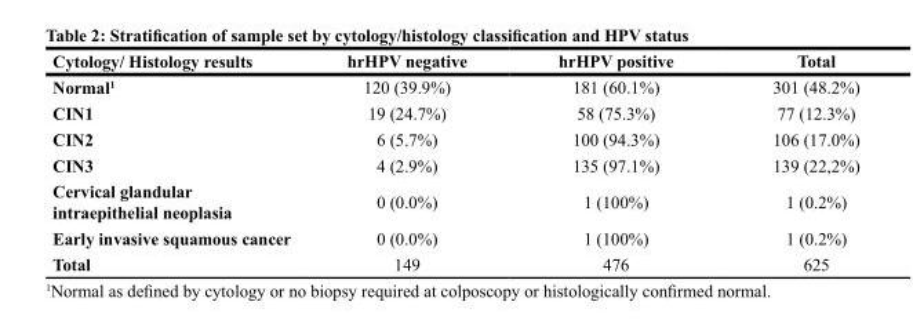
<table><thead><tr><td>Cytology/ Histology results</td><td>hrHPV negative</td><td>hrHPV positive</td><td>Total</td></tr></thead><tbody><tr><td>Normal<sup>1</sup></td><td>120 (39.9%)</td><td>181 (60.1%)</td><td>301 (48.2%)</td></tr><tr><td>CIN1</td><td>19 (24.7%)</td><td>58 (75.3%)</td><td>77 (12.3%)</td></tr><tr><td>CIN2</td><td>6 (5.7%)</td><td>100 (94.3%)</td><td>106 (17.0%)</td></tr><tr><td>CIN3</td><td>4 (2.9%)</td><td>135 (97.1%)</td><td>139 (22,2%)</td></tr><tr><td>Cervical glandular intraepithelial neoplasia</td><td>0 (0.0%)</td><td>1 (100%)</td><td>1 (0.2%)</td></tr><tr><td>Early invasive squamous cancer</td><td>0 (0.0%)</td><td>1 (100%)</td><td>1 (0.2%)</td></tr><tr><td>Total</td><td>149</td><td>476</td><td>625</td></tr></tbody></table>